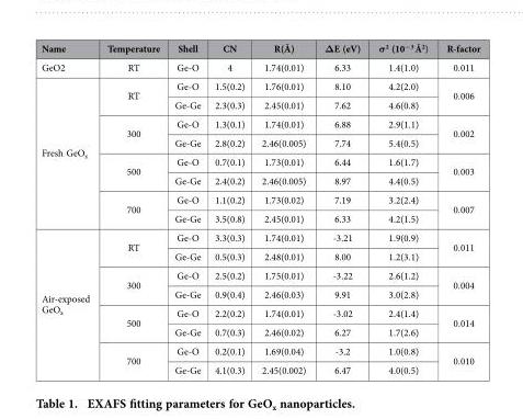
<table><thead><tr><td>Name</td><td>Temperature</td><td>Shell</td><td>CN</td><td>R(Å)</td><td>ΔE (eV)</td><td>σ<sup>2</sup> (10<sup>−3</sup> Å<sup>2</sup>)</td><td>R-factor</td></tr></thead><tbody><tr><td>GeO2</td><td>RT</td><td>Ge-O</td><td>4</td><td>1.74(0.01)</td><td>6.33</td><td>1.4(1.0)</td><td>0.011</td></tr><tr><td rowspan="8">Fresh GeO<sub>x</sub></td><td rowspan="2">RT</td><td>Ge-O</td><td>1.5(0.2)</td><td>1.76(0.01)</td><td>8.10</td><td>4.2(2.0)</td><td rowspan="2">0.006</td></tr><tr><td>Ge-Ge</td><td>2.3(0.3)</td><td>2.45(0.01)</td><td>7.62</td><td>4.6(0.8)</td></tr><tr><td rowspan="2">300</td><td>Ge-O</td><td>1.3(0.1)</td><td>1.74(0.01)</td><td>6.88</td><td>2.9(1.1)</td><td rowspan="2">0.002</td></tr><tr><td>Ge-Ge</td><td>2.8(0.2)</td><td>2.46(0.005)</td><td>7.74</td><td>5.4(0.5)</td></tr><tr><td rowspan="2">500</td><td>Ge-O</td><td>0.7(0.1)</td><td>1.73(0.01)</td><td>6.44</td><td>1.6(1.7)</td><td rowspan="2">0.003</td></tr><tr><td>Ge-Ge</td><td>2.4(0.2)</td><td>2.46(0.005)</td><td>8.97</td><td>4.4(0.5)</td></tr><tr><td rowspan="2">700</td><td>Ge-O</td><td>1.1(0.2)</td><td>1.73(0.02)</td><td>7.19</td><td>3.2(2.4)</td><td rowspan="2">0.007</td></tr><tr><td>Ge-Ge</td><td>3.5(0.8)</td><td>2.45(0.01)</td><td>6.33</td><td>4.2(1.5)</td></tr><tr><td rowspan="8">Air-exposed GeO<sub>x</sub></td><td rowspan="2">RT</td><td>Ge-O</td><td>3.3(0.3)</td><td>1.74(0.01)</td><td>-3.21</td><td>1.9(0.9)</td><td rowspan="2">0.011</td></tr><tr><td>Ge-Ge</td><td>0.5(0.3)</td><td>2.48(0.01)</td><td>8.00</td><td>1.2(3.1)</td></tr><tr><td rowspan="2">300</td><td>Ge-O</td><td>2.5(0.2)</td><td>1.75(0.01)</td><td>-3.22</td><td>2.6(1.2)</td><td rowspan="2">0.004</td></tr><tr><td>Ge-Ge</td><td>0.9(0.4)</td><td>2.46(0.03)</td><td>9.91</td><td>3.0(2.8)</td></tr><tr><td rowspan="2">500</td><td>Ge-O</td><td>2.2(0.2)</td><td>1.74(0.01)</td><td>-3.02</td><td>2.4(1.4)</td><td rowspan="2">0.014</td></tr><tr><td>Ge-Ge</td><td>0.7(0.3)</td><td>2.46(0.02)</td><td>6.27</td><td>1.7(2.6)</td></tr><tr><td rowspan="2">700</td><td>Ge-O</td><td>0.2(0.1)</td><td>1.69(0.04)</td><td>-3.2</td><td>1.0(0.8)</td><td rowspan="2">0.010</td></tr><tr><td>Ge-Ge</td><td>4.1(0.3)</td><td>2.45(0.002)</td><td>6.47</td><td>4.0(0.5)</td></tr></tbody></table>